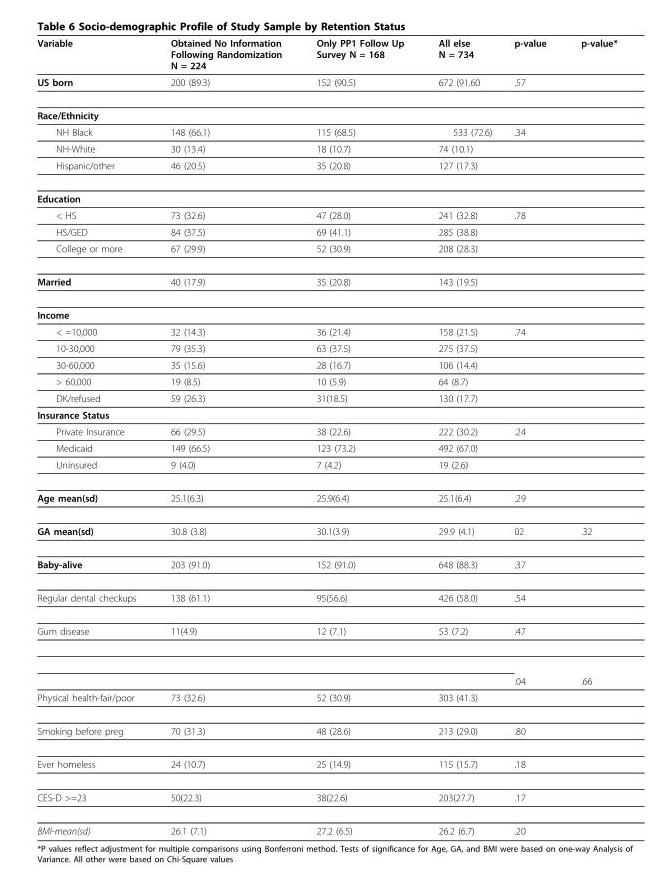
<table><thead><tr><td>Variable</td><td>Obtained No Information Following Randomization N = 224</td><td>Only PP1 Follow Up Survey N = 168</td><td>All else N = 734</td><td>p-value</td><td>p-value*</td></tr></thead><tbody><tr><td>US born</td><td>200 (89.3)</td><td>152 (90.5)</td><td>672 (91.60</td><td>.57</td><td></td></tr><tr><td colspan="6">Race/Ethnicity</td></tr><tr><td>NH Black</td><td>148 (66.1)</td><td>115 (68.5)</td><td>533 (72.6)</td><td>.34</td><td></td></tr><tr><td>NH-White</td><td>30 (13.4)</td><td>18 (10.7)</td><td>74 (10.1)</td><td></td><td></td></tr><tr><td>Hispanic/other</td><td>46 (20.5)</td><td>35 (20.8)</td><td>127 (17.3)</td><td></td><td></td></tr><tr><td colspan="6">Education</td></tr><tr><td>&lt; HS</td><td>73 (32.6)</td><td>47 (28.0)</td><td>241 (32.8)</td><td>.78</td><td></td></tr><tr><td>HS/GED</td><td>84 (37.5)</td><td>69 (41.1)</td><td>285 (38.8)</td><td></td><td></td></tr><tr><td>College or more</td><td>67 (29.9)</td><td>52 (30.9)</td><td>208 (28.3)</td><td></td><td></td></tr><tr><td>Married</td><td>40 (17.9)</td><td>35 (20.8)</td><td>143 (19.5)</td><td></td><td></td></tr><tr><td colspan="6">Income</td></tr><tr><td>&lt; =10,000</td><td>32 (14.3)</td><td>36 (21.4)</td><td>158 (21.5)</td><td>.74</td><td></td></tr><tr><td>10-30,000</td><td>79 (35.3)</td><td>63 (37.5)</td><td>275 (37.5)</td><td></td><td></td></tr><tr><td>30-60,000</td><td>35 (15.6)</td><td>28 (16.7)</td><td>106 (14.4)</td><td></td><td></td></tr><tr><td>&gt; 60,000</td><td>19 (8.5)</td><td>10 (5.9)</td><td>64 (8.7)</td><td></td><td></td></tr><tr><td>DK/refused</td><td>59 (26.3)</td><td>31(18.5)</td><td>130 (17.7)</td><td></td><td></td></tr><tr><td colspan="6">Insurance Status</td></tr><tr><td>Private Insurance</td><td>66 (29.5)</td><td>38 (22.6)</td><td>222 (30.2)</td><td>.24</td><td></td></tr><tr><td>Medicaid</td><td>149 (66.5)</td><td>123 (73.2)</td><td>492 (67.0)</td><td></td><td></td></tr><tr><td>Uninsured</td><td>9 (4.0)</td><td>7 (4.2)</td><td>19 (2.6)</td><td></td><td></td></tr><tr><td>Age mean(sd)</td><td>25.1(6.3)</td><td>25.9(6.4)</td><td>25.1(6.4)</td><td>.29</td><td></td></tr><tr><td>GA mean(sd)</td><td>30.8 (3.8)</td><td>30.1(3.9)</td><td>29.9 (4.1)</td><td>02</td><td>.32</td></tr><tr><td>Baby-alive</td><td>203 (91.0)</td><td>152 (91.0)</td><td>648 (88.3)</td><td>.37</td><td></td></tr><tr><td>Regular dental checkups</td><td>138 (61.1)</td><td>95(56.6)</td><td>426 (58.0)</td><td>.54</td><td></td></tr><tr><td rowspan="2">Gum disease</td><td>11(4.9)</td><td>12 (7.1)</td><td>53 (7.2)</td><td>.47</td><td></td></tr><tr><td></td><td></td><td></td><td>.04</td><td>.66</td></tr><tr><td>Physical health-fair/poor</td><td>73 (32.6)</td><td>52 (30.9)</td><td>303 (41.3)</td><td></td><td></td></tr><tr><td>Smoking before preg</td><td>70 (31.3)</td><td>48 (28.6)</td><td>213 (29.0)</td><td>.80</td><td></td></tr><tr><td>Ever homeless</td><td>24 (10.7)</td><td>25 (14.9)</td><td>115 (15.7)</td><td>.18</td><td></td></tr><tr><td>CES-D &gt;=23</td><td>50(22.3)</td><td>38(22.6)</td><td>203(27.7)</td><td>.17</td><td></td></tr><tr><td>BMI-mean(sd)</td><td>26.1 (7.1)</td><td>27.2 (6.5)</td><td>26.2 (6.7)</td><td>.20</td><td></td></tr></tbody></table>